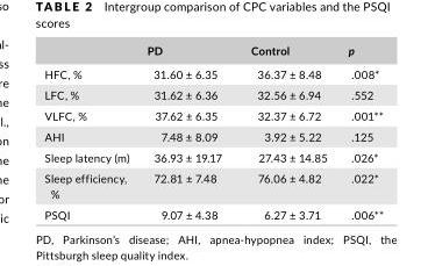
<table><thead><tr><td></td><td>PD</td><td>Control</td><td>p</td></tr></thead><tbody><tr><td>HFC, %</td><td>31.60 ± 6.35</td><td>36.37 ± 8.48</td><td>.008*</td></tr><tr><td>LFC, %</td><td>31.62 ± 6.36</td><td>32.56 ± 6.94</td><td>.552</td></tr><tr><td>VLFC, %</td><td>37.62 ± 6.35</td><td>32.37 ± 6.72</td><td>.001**</td></tr><tr><td>AHI</td><td>7.48 ± 8.09</td><td>3.92 ± 5.22</td><td>.125</td></tr><tr><td>Sleep latency (m)</td><td>36.93 ± 19.17</td><td>27.43 ± 14.85</td><td>.026*</td></tr><tr><td>Sleep efficiency, %</td><td>72.81 ± 7.48</td><td>76.06 ± 4.82</td><td>.022*</td></tr><tr><td>PSQI</td><td>9.07 ± 4.38</td><td>6.27 ± 3.71</td><td>.006**</td></tr></tbody></table>